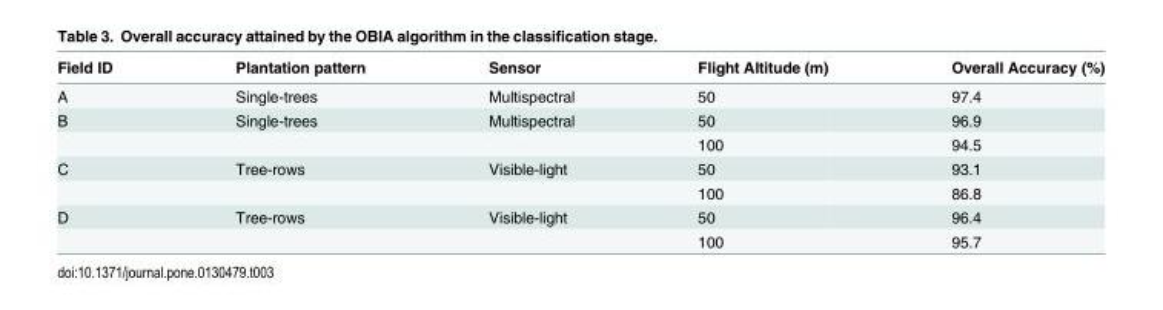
<table><thead><tr><td>Field ID</td><td>Plantation pattern</td><td>Sensor</td><td>Flight Altitude (m)</td><td>Overall Accuracy (%)</td></tr></thead><tbody><tr><td>A</td><td>Single-trees</td><td>Multispectral</td><td>50</td><td>97.4</td></tr><tr><td rowspan="2">B</td><td>Single-trees</td><td>Multispectral</td><td>50</td><td>96.9</td></tr><tr><td></td><td></td><td>100</td><td>94.5</td></tr><tr><td rowspan="2">C</td><td>Tree-rows</td><td>Visible-light</td><td>50</td><td>93.1</td></tr><tr><td></td><td></td><td>100</td><td>86.8</td></tr><tr><td rowspan="2">D</td><td>Tree-rows</td><td>Visible-light</td><td>50</td><td>96.4</td></tr><tr><td></td><td></td><td>100</td><td>95.7</td></tr></tbody></table>